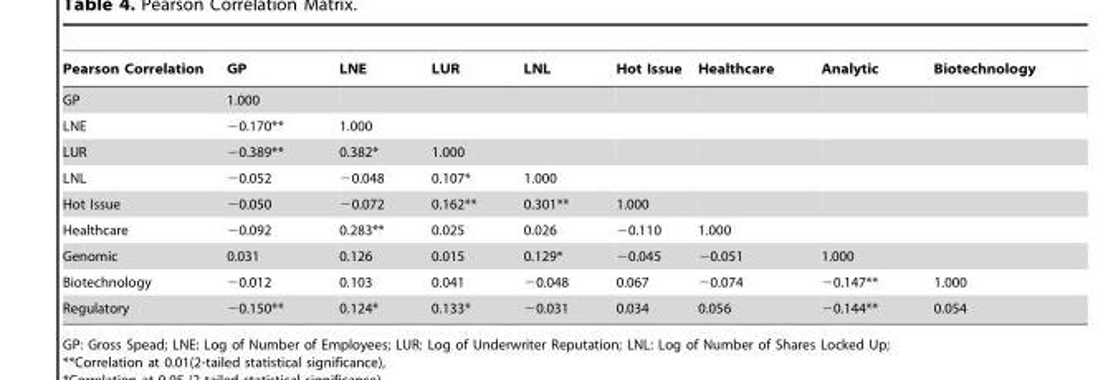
<table><thead><tr><td>Pearson Correlation</td><td>GP</td><td>LNE</td><td>LUR</td><td>LNL</td><td>Hot Issue</td><td>Healthcare</td><td>Analytic</td><td>Biotechnology</td></tr></thead><tbody><tr><td>GP</td><td>1.000</td><td></td><td></td><td></td><td></td><td></td><td></td><td></td></tr><tr><td>LNE</td><td>−0.170**</td><td>1.000</td><td></td><td></td><td></td><td></td><td></td><td></td></tr><tr><td>LUR</td><td>−0.389**</td><td>0.382*</td><td>1.000</td><td></td><td></td><td></td><td></td><td></td></tr><tr><td>LNL</td><td>−0.052</td><td>−0.048</td><td>0.107*</td><td>1.000</td><td></td><td></td><td></td><td></td></tr><tr><td>Hot Issue</td><td>−0.050</td><td>−0.072</td><td>0.162**</td><td>0.301**</td><td>1.000</td><td></td><td></td><td></td></tr><tr><td>Healthcare</td><td>−0.092</td><td>0.283**</td><td>0.025</td><td>0.026</td><td>−0.110</td><td>1.000</td><td></td><td></td></tr><tr><td>Genomic</td><td>0.031</td><td>0.126</td><td>0.015</td><td>0.129*</td><td>−0.045</td><td>−0.051</td><td>1.000</td><td></td></tr><tr><td>Biotechnology</td><td>−0.012</td><td>0.103</td><td>0.041</td><td>−0.048</td><td>0.067</td><td>−0.074</td><td>−0.147**</td><td>1.000</td></tr><tr><td>Regulatory</td><td>−0.150**</td><td>0.124*</td><td>0.133*</td><td>−0.031</td><td>0.034</td><td>0.056</td><td>−0.144**</td><td>0.054</td></tr></tbody></table>